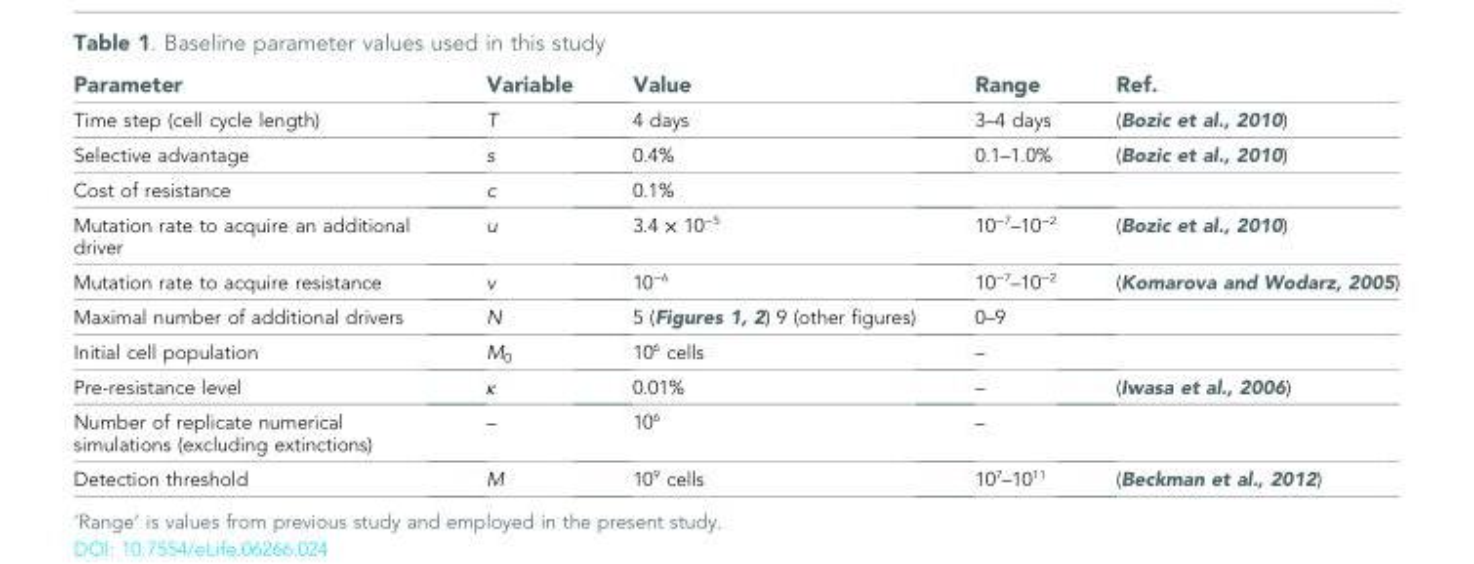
<table><thead><tr><td>Parameter</td><td>Variable</td><td>Value</td><td>Range</td><td>Ref.</td></tr></thead><tbody><tr><td>Time step (cell cycle length)</td><td>T</td><td>4 days</td><td>3–4 days</td><td>(Bozic et al., 2010)</td></tr><tr><td>Selective advantage</td><td>s</td><td>0.4%</td><td>0.1–1.0%</td><td>(Bozic et al., 2010)</td></tr><tr><td>Cost of resistance</td><td>c</td><td>0.1%</td><td></td><td></td></tr><tr><td>Mutation rate to acquire an additional driver</td><td>u</td><td>3.4 × 10<sup>−5</sup></td><td>10<sup>−7</sup>–10<sup>−2</sup></td><td>(Bozic et al., 2010)</td></tr><tr><td>Mutation rate to acquire resistance</td><td>v</td><td>10<sup>−6</sup></td><td>10<sup>−7</sup>–10<sup>−2</sup></td><td>(Komarova and Wodarz, 2005)</td></tr><tr><td>Maximal number of additional drivers</td><td>N</td><td>5 (Figures 1, 2) 9 (other figures)</td><td>0–9</td><td></td></tr><tr><td>Initial cell population</td><td>M<sub>0</sub></td><td>10<sup>6</sup> cells</td><td>–</td><td></td></tr><tr><td>Pre-resistance level</td><td>κ</td><td>0.01%</td><td>–</td><td>(Iwasa et al., 2006)</td></tr><tr><td>Number of replicate numerical simulations (excluding extinctions)</td><td>–</td><td>10<sup>6</sup></td><td>–</td><td></td></tr><tr><td>Detection threshold</td><td>M</td><td>10<sup>9</sup> cells</td><td>10<sup>7</sup>–10<sup>11</sup></td><td>(Beckman et al., 2012)</td></tr></tbody></table>